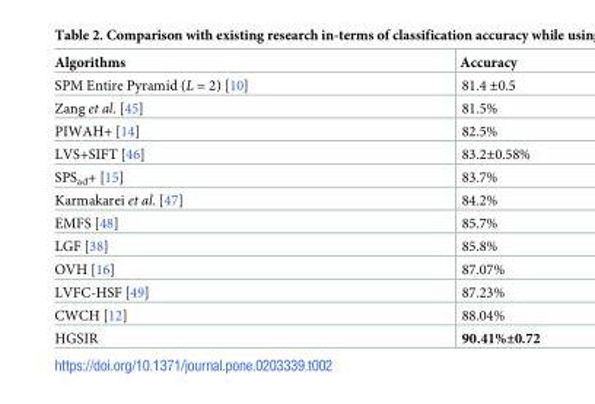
<table><thead><tr><td>Algorithms</td><td>Accuracy</td></tr></thead><tbody><tr><td>SPM Entire Pyramid (L = 2) [10]</td><td>81.4 ±0.5</td></tr><tr><td>Zang et al. [45]</td><td>81.5%</td></tr><tr><td>PIWAH+ [14]</td><td>82.5%</td></tr><tr><td>LVS+SIFT [46]</td><td>83.2±0.58%</td></tr><tr><td>SPS<sub>ad</sub>+ [15]</td><td>83.7%</td></tr><tr><td>Karmakarei et al. [47]</td><td>84.2%</td></tr><tr><td>EMFS [48]</td><td>85.7%</td></tr><tr><td>LGF [38]</td><td>85.8%</td></tr><tr><td>OVH [16]</td><td>87.07%</td></tr><tr><td>LVFC-HSF [49]</td><td>87.23%</td></tr><tr><td>CWCH [12]</td><td>88.04%</td></tr><tr><td>HGSIR</td><td>90.41%±0.72</td></tr></tbody></table>